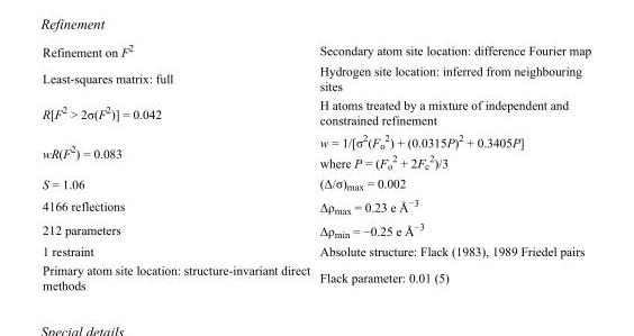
<table><tbody><tr><td>Refinement on F<sup>2</sup></td><td>Secondary atom site location: difference Fourier map</td></tr><tr><td>Least-squares matrix: full</td><td>Hydrogen site location: inferred from neighbouring sites</td></tr><tr><td>R[F<sup>2</sup> &gt; 2σ(F<sup>2</sup>)] = 0.042</td><td>H atoms treated by a mixture of independent and constrained refinement</td></tr><tr><td>wR(F<sup>2</sup>) = 0.083</td><td>w = 1/[σ<sup>2</sup>(F<sub>o</sub> <sup>2</sup>) + (0.0315P)<sup>2</sup> + 0.3405P] where P = (F<sub>o</sub> <sup>2</sup> + 2F<sub>c</sub> <sup>2</sup>)/3</td></tr><tr><td>S = 1.06</td><td>(Δ/σ)<sub>max</sub> = 0.002</td></tr><tr><td>4166 reflections</td><td>Δρ<sub>max</sub> = 0.23 e Å<sup>−3</sup></td></tr><tr><td>212 parameters</td><td>Δρ<sub>min</sub> = −0.25 e Å<sup>−3</sup></td></tr><tr><td>1 restraint</td><td>Absolute structure: Flack (1983), 1989 Friedel pairs</td></tr><tr><td>Primary atom site location: structure-invariant direct methods</td><td>Flack parameter: 0.01 (5)</td></tr></tbody></table>